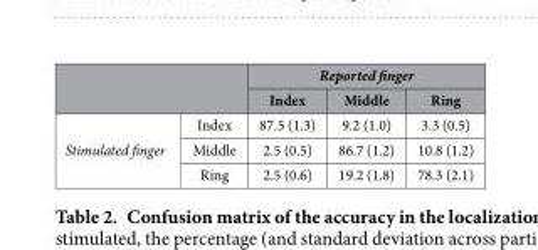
<table><thead><tr><td rowspan="2"></td><td rowspan="2"></td><td colspan="3">Reported finger</td></tr><tr><td>Index</td><td>Middle</td><td>Ring</td></tr></thead><tbody><tr><td rowspan="3">Stimulated finger</td><td>Index</td><td>87.5 (1.3)</td><td>9.2 (1.0)</td><td>3.3 (0.5)</td></tr><tr><td>Middle</td><td>2.5 (0.5)</td><td>86.7 (1.2)</td><td>10.8 (1.2)</td></tr><tr><td>Ring</td><td>2.5 (0.6)</td><td>19.2 (1.8)</td><td>78.3 (2.1)</td></tr></tbody></table>